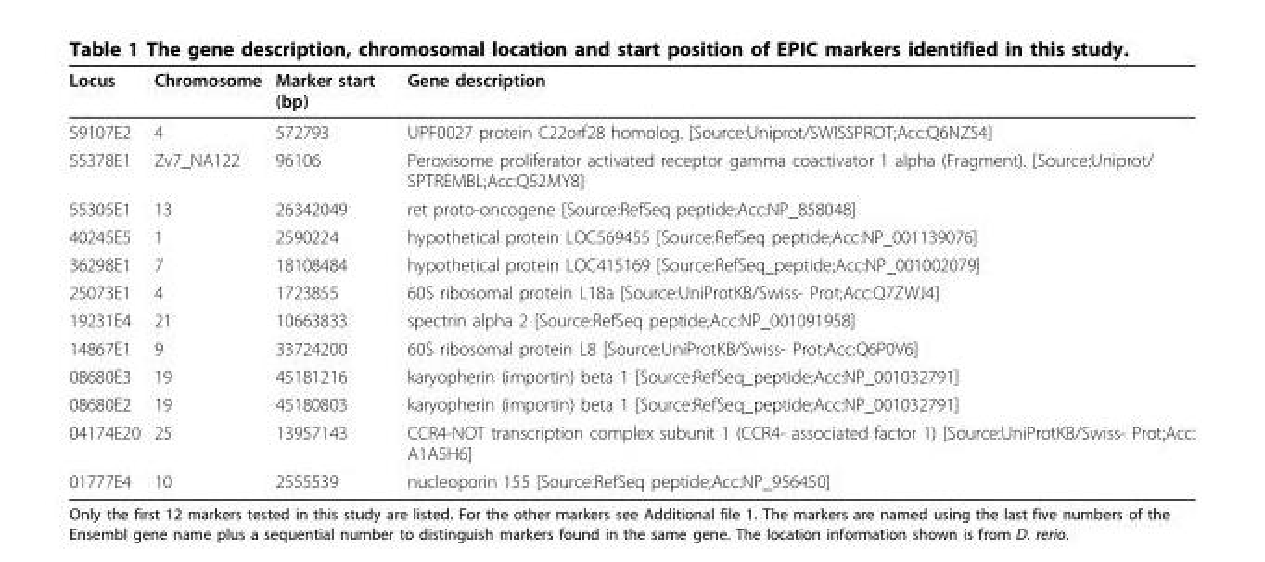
<table><thead><tr><td>Locus</td><td>Chromosome</td><td>Marker start (bp)</td><td>Gene description</td></tr></thead><tbody><tr><td>59107E2</td><td>4</td><td>572793</td><td>UPF0027 protein C22orf28 homolog. [Source:Uniprot/SWISSPROT;Acc:Q6NZS4]</td></tr><tr><td>55378E1</td><td>Zv7_NA122</td><td>96106</td><td>Peroxisome proliferator activated receptor gamma coactivator 1 alpha (Fragment). [Source:Uniprot/ SPTREMBL;Acc:Q52MY8]</td></tr><tr><td>55305E1</td><td>13</td><td>26342049</td><td>ret proto-oncogene [Source:RefSeq peptide;Acc:NP_858048]</td></tr><tr><td>40245E5</td><td>1</td><td>2590224</td><td>hypothetical protein LOC569455 [Source:RefSeq peptide;Acc:NP_001139076]</td></tr><tr><td>36298E1</td><td>7</td><td>18108484</td><td>hypothetical protein LOC415169 [Source:RefSeq_peptide;Acc:NP_001002079]</td></tr><tr><td>25073E1</td><td>4</td><td>1723855</td><td>60S ribosomal protein L18a [Source:UniProtKB/Swiss- Prot;Acc:Q7ZWJ4]</td></tr><tr><td>19231E4</td><td>21</td><td>10663833</td><td>spectrin alpha 2 [Source:RefSeq peptide;Acc:NP_001091958]</td></tr><tr><td>14867E1</td><td>9</td><td>33724200</td><td>60S ribosomal protein L8 [Source:UniProtKB/Swiss- Prot;Acc:Q6P0V6]</td></tr><tr><td>08680E3</td><td>19</td><td>45181216</td><td>karyopherin (importin) beta 1 [Source:RefSeq_peptide;Acc:NP_001032791]</td></tr><tr><td>08680E2</td><td>19</td><td>45180803</td><td>karyopherin (importin) beta 1 [Source:RefSeq_peptide;Acc:NP_001032791]</td></tr><tr><td>04174E20</td><td>25</td><td>13957143</td><td>CCR4-NOT transcription complex subunit 1 (CCR4- associated factor 1) [Source:UniProtKB/Swiss- Prot;Acc: A1A5H6]</td></tr><tr><td>01777E4</td><td>10</td><td>2555539</td><td>nucleoporin 155 [Source:RefSeq peptide;Acc:NP_956450]</td></tr></tbody></table>